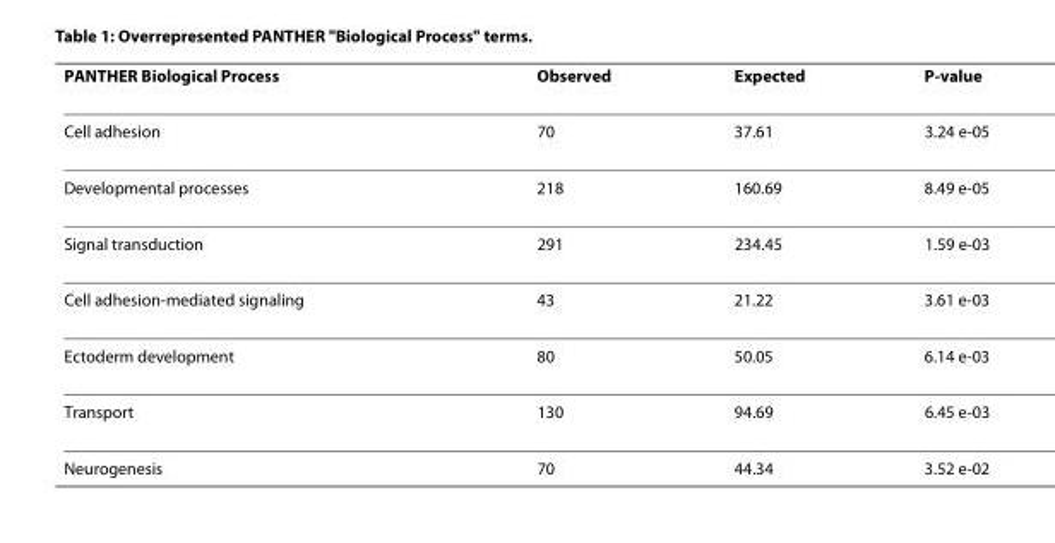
<table><thead><tr><td>PANTHER Biological Process</td><td>Observed</td><td>Expected</td><td>P-value</td></tr></thead><tbody><tr><td>Cell adhesion</td><td>70</td><td>37.61</td><td>3.24 e-05</td></tr><tr><td>Developmental processes</td><td>218</td><td>160.69</td><td>8.49 e-05</td></tr><tr><td>Signal transduction</td><td>291</td><td>234.45</td><td>1.59 e-03</td></tr><tr><td>Cell adhesion-mediated signaling</td><td>43</td><td>21.22</td><td>3.61 e-03</td></tr><tr><td>Ectoderm development</td><td>80</td><td>50.05</td><td>6.14 e-03</td></tr><tr><td>Transport</td><td>130</td><td>94.69</td><td>6.45 e-03</td></tr><tr><td>Neurogenesis</td><td>70</td><td>44.34</td><td>3.52 e-02</td></tr></tbody></table>